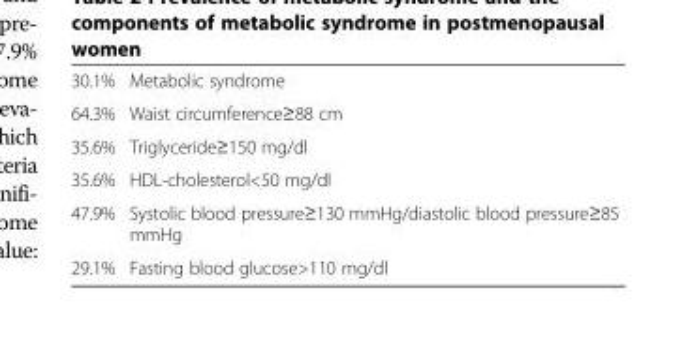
<table><tbody><tr><td>30.1%</td><td>Metabolic syndrome</td></tr><tr><td>64.3%</td><td>Waist circumference≥88 cm</td></tr><tr><td>35.6%</td><td>Triglyceride≥150 mg/dl</td></tr><tr><td>35.6%</td><td>HDL-cholesterol&lt;50 mg/dl</td></tr><tr><td>47.9%</td><td>Systolic blood pressure≥130 mmHg/diastolic blood pressure≥85 mmHg</td></tr><tr><td>29.1%</td><td>Fasting blood glucose&gt;110 mg/dl</td></tr></tbody></table>